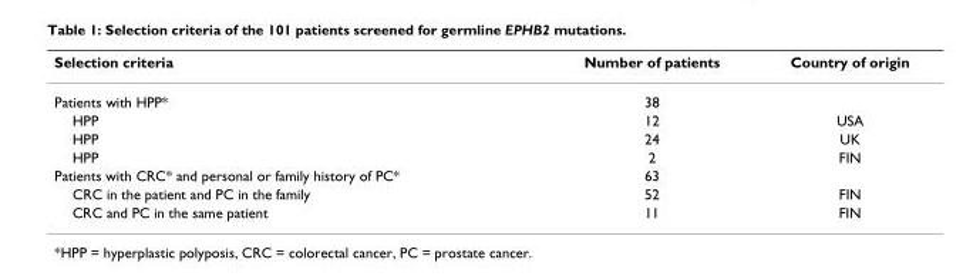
<table><thead><tr><td>Selection criteria</td><td>Number of patients</td><td>Country of origin</td></tr></thead><tbody><tr><td>Patients with HPP*</td><td>38</td><td></td></tr><tr><td>HPP</td><td>12</td><td>USA</td></tr><tr><td>HPP</td><td>24</td><td>UK</td></tr><tr><td>HPP</td><td>2</td><td>FIN</td></tr><tr><td>Patients with CRC* and personal or family history of PC*</td><td>63</td><td></td></tr><tr><td>CRC in the patient and PC in the family</td><td>52</td><td>FIN</td></tr><tr><td>CRC and PC in the same patient</td><td>11</td><td>FIN</td></tr></tbody></table>